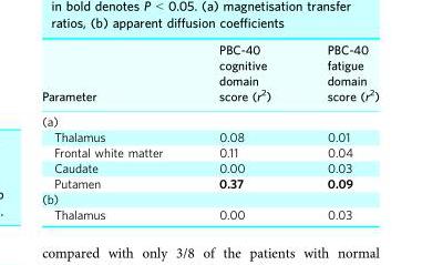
<table><thead><tr><td>Parameter</td><td>PBC-40 cognitive domain score (r<sup>2</sup>)</td><td>PBC-40 fatigue domain score (r<sup>2</sup>)</td></tr></thead><tbody><tr><td colspan="3">(a)</td></tr><tr><td>Thalamus</td><td>0.08</td><td>0.01</td></tr><tr><td>Frontal white matter</td><td>0.11</td><td>0.04</td></tr><tr><td>Caudate</td><td>0.00</td><td>0.03</td></tr><tr><td>Putamen</td><td>0.37</td><td>0.09</td></tr><tr><td colspan="3">(b)</td></tr><tr><td>Thalamus</td><td>0.00</td><td>0.03</td></tr></tbody></table>